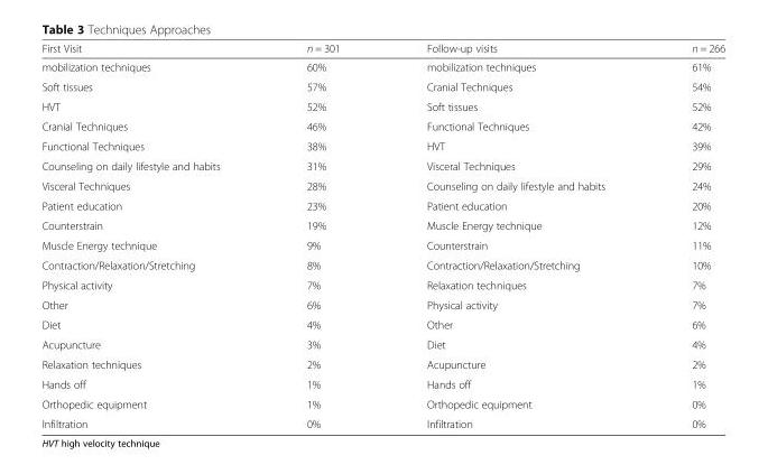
<table><thead><tr><td>First Visit</td><td>n = 301</td><td>Follow-up visits</td><td>n = 266</td></tr></thead><tbody><tr><td>mobilization techniques</td><td>60%</td><td>mobilization techniques</td><td>61%</td></tr><tr><td>Soft tissues</td><td>57%</td><td>Cranial Techniques</td><td>54%</td></tr><tr><td>HVT</td><td>52%</td><td>Soft tissues</td><td>52%</td></tr><tr><td>Cranial Techniques</td><td>46%</td><td>Functional Techniques</td><td>42%</td></tr><tr><td>Functional Techniques</td><td>38%</td><td>HVT</td><td>39%</td></tr><tr><td>Counseling on daily lifestyle and habits</td><td>31%</td><td>Visceral Techniques</td><td>29%</td></tr><tr><td>Visceral Techniques</td><td>28%</td><td>Counseling on daily lifestyle and habits</td><td>24%</td></tr><tr><td>Patient education</td><td>23%</td><td>Patient education</td><td>20%</td></tr><tr><td>Counterstrain</td><td>19%</td><td>Muscle Energy technique</td><td>12%</td></tr><tr><td>Muscle Energy technique</td><td>9%</td><td>Counterstrain</td><td>11%</td></tr><tr><td>Contraction/Relaxation/Stretching</td><td>8%</td><td>Contraction/Relaxation/Stretching</td><td>10%</td></tr><tr><td>Physical activity</td><td>7%</td><td>Relaxation techniques</td><td>7%</td></tr><tr><td>Other</td><td>6%</td><td>Physical activity</td><td>7%</td></tr><tr><td>Diet</td><td>4%</td><td>Other</td><td>6%</td></tr><tr><td>Acupuncture</td><td>3%</td><td>Diet</td><td>4%</td></tr><tr><td>Relaxation techniques</td><td>2%</td><td>Acupuncture</td><td>2%</td></tr><tr><td>Hands off</td><td>1%</td><td>Hands off</td><td>1%</td></tr><tr><td>Orthopedic equipment</td><td>1%</td><td>Orthopedic equipment</td><td>0%</td></tr><tr><td>Infiltration</td><td>0%</td><td>Infiltration</td><td>0%</td></tr></tbody></table>